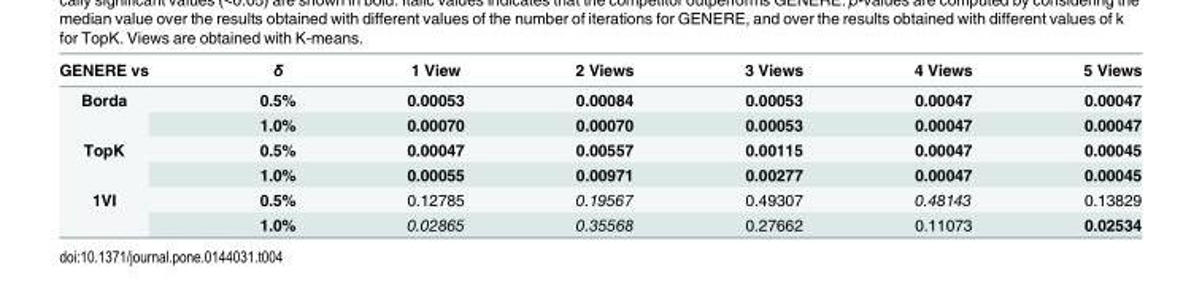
<table><thead><tr><td>GENERE vs</td><td>δ</td><td>1 View</td><td>2 Views</td><td>3 Views</td><td>4 Views</td><td>5 Views</td></tr></thead><tbody><tr><td rowspan="2">Borda</td><td>0.5%</td><td>0.00053</td><td>0.00084</td><td>0.00053</td><td>0.00047</td><td>0.00047</td></tr><tr><td>1.0%</td><td>0.00070</td><td>0.00070</td><td>0.00053</td><td>0.00047</td><td>0.00047</td></tr><tr><td rowspan="2">TopK</td><td>0.5%</td><td>0.00047</td><td>0.00557</td><td>0.00115</td><td>0.00047</td><td>0.00045</td></tr><tr><td>1.0%</td><td>0.00055</td><td>0.00971</td><td>0.00277</td><td>0.00047</td><td>0.00045</td></tr><tr><td rowspan="2">1VI</td><td>0.5%</td><td>0.12785</td><td>0.19567</td><td>0.49307</td><td>0.48143</td><td>0.13829</td></tr><tr><td>1.0%</td><td>0.02865</td><td>0.35568</td><td>0.27662</td><td>0.11073</td><td>0.02534</td></tr></tbody></table>